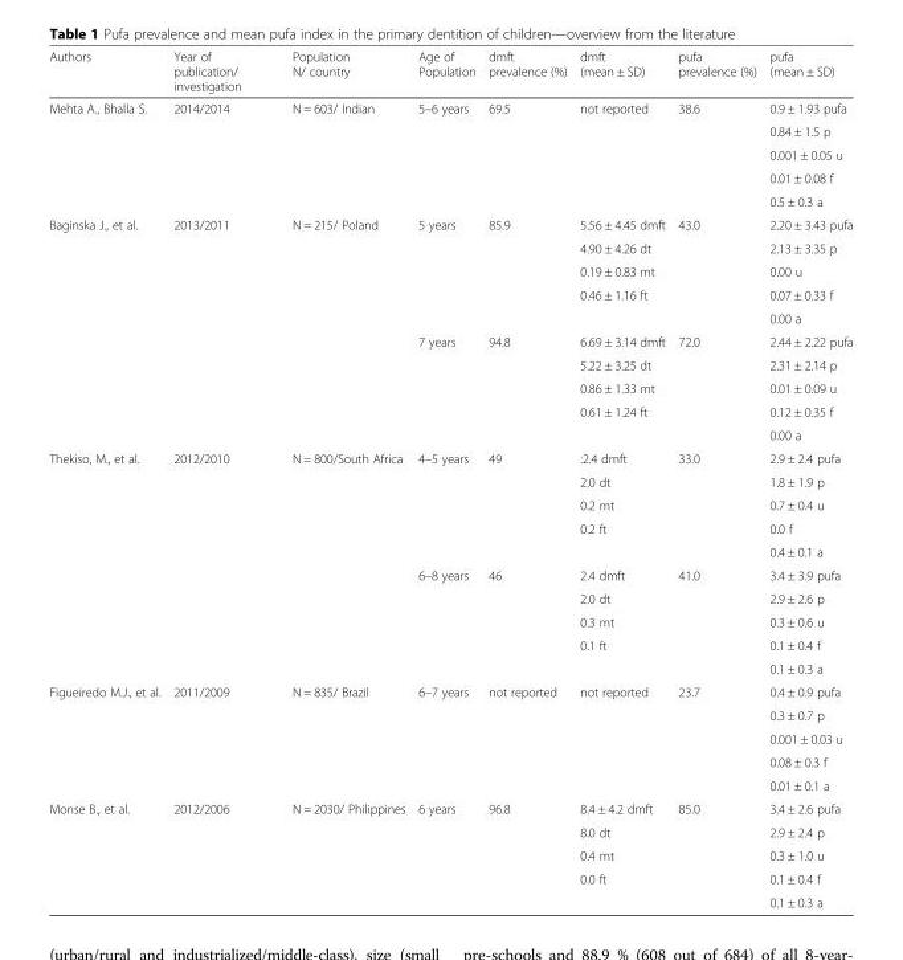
<table><thead><tr><td>Authors</td><td>Year of publication/ investigation</td><td>Population N/ country</td><td>Age of Population</td><td>dmft prevalence (%)</td><td>dmft (mean ± SD)</td><td>pufa prevalence (%)</td><td>pufa (mean ± SD)</td></tr></thead><tbody><tr><td rowspan="5">Mehta A., Bhalla S.</td><td rowspan="5">2014/2014</td><td rowspan="5">N = 603/ Indian</td><td rowspan="5">5–6 years</td><td rowspan="5">69.5</td><td rowspan="5">not reported</td><td rowspan="5">38.6</td><td>0.9 ± 1.93 pufa</td></tr><tr><td>0.84 ± 1.5 p</td></tr><tr><td>0.001 ± 0.05 u</td></tr><tr><td>0.01 ± 0.08 f</td></tr><tr><td>0.5 ± 0.3 a</td></tr><tr><td rowspan="10">Baginska J., et al.</td><td rowspan="10">2013/2011</td><td rowspan="10">N = 215/ Poland</td><td rowspan="5">5 years</td><td rowspan="5">85.9</td><td>5.56 ± 4.45 dmft</td><td rowspan="5">43.0</td><td>2.20 ± 3.43 pufa</td></tr><tr><td>4.90 ± 4.26 dt</td><td>2.13 ± 3.35 p</td></tr><tr><td>0.19 ± 0.83 mt</td><td>0.00 u</td></tr><tr><td rowspan="2">0.46 ± 1.16 ft</td><td>0.07 ± 0.33 f</td></tr><tr><td>0.00 a</td></tr><tr><td rowspan="5">7 years</td><td rowspan="5">94.8</td><td>6.69 ± 3.14 dmft</td><td rowspan="5">72.0</td><td>2.44 ± 2.22 pufa</td></tr><tr><td>5.22 ± 3.25 dt</td><td>2.31 ± 2.14 p</td></tr><tr><td>0.86 ± 1.33 mt</td><td>0.01 ± 0.09 u</td></tr><tr><td rowspan="2">0.61 ± 1.24 ft</td><td>0.12 ± 0.35 f</td></tr><tr><td>0.00 a</td></tr><tr><td rowspan="10">Thekiso, M., et al.</td><td rowspan="10">2012/2010</td><td rowspan="10">N = 800/South Africa</td><td rowspan="5">4–5 years</td><td rowspan="5">49</td><td>:2.4 dmft</td><td rowspan="5">33.0</td><td>2.9 ± 2.4 pufa</td></tr><tr><td>2.0 dt</td><td>1.8 ± 1.9 p</td></tr><tr><td>0.2 mt</td><td>0.7 ± 0.4 u</td></tr><tr><td rowspan="2">0.2 ft</td><td>0.0 f</td></tr><tr><td>0.4 ± 0.1 a</td></tr><tr><td rowspan="5">6–8 years</td><td rowspan="5">46</td><td>2.4 dmft</td><td rowspan="5">41.0</td><td>3.4 ± 3.9 pufa</td></tr><tr><td>2.0 dt</td><td>2.9 ± 2.6 p</td></tr><tr><td>0.3 mt</td><td>0.3 ± 0.6 u</td></tr><tr><td rowspan="2">0.1 ft</td><td>0.1 ± 0.4 f</td></tr><tr><td>0.1 ± 0.3 a</td></tr><tr><td rowspan="5">Figueiredo M.J., et al.</td><td rowspan="5">2011/2009</td><td rowspan="5">N = 835/ Brazil</td><td rowspan="5">6–7 years</td><td rowspan="5">not reported</td><td rowspan="5">not reported</td><td rowspan="5">23.7</td><td>0.4 ± 0.9 pufa</td></tr><tr><td>0.3 ± 0.7 p</td></tr><tr><td>0.001 ± 0.03 u</td></tr><tr><td>0.08 ± 0.3 f</td></tr><tr><td>0.01 ± 0.1 a</td></tr><tr><td rowspan="5">Monse B., et al.</td><td rowspan="5">2012/2006</td><td rowspan="5">N = 2030/ Philippines</td><td rowspan="5">6 years</td><td rowspan="5">96.8</td><td>8.4 ± 4.2 dmft</td><td rowspan="5">85.0</td><td>3.4 ± 2.6 pufa</td></tr><tr><td>8.0 dt</td><td>2.9 ± 2.4 p</td></tr><tr><td>0.4 mt</td><td>0.3 ± 1.0 u</td></tr><tr><td rowspan="2">0.0 ft</td><td>0.1 ± 0.4 f</td></tr><tr><td>0.1 ± 0.3 a</td></tr></tbody></table>